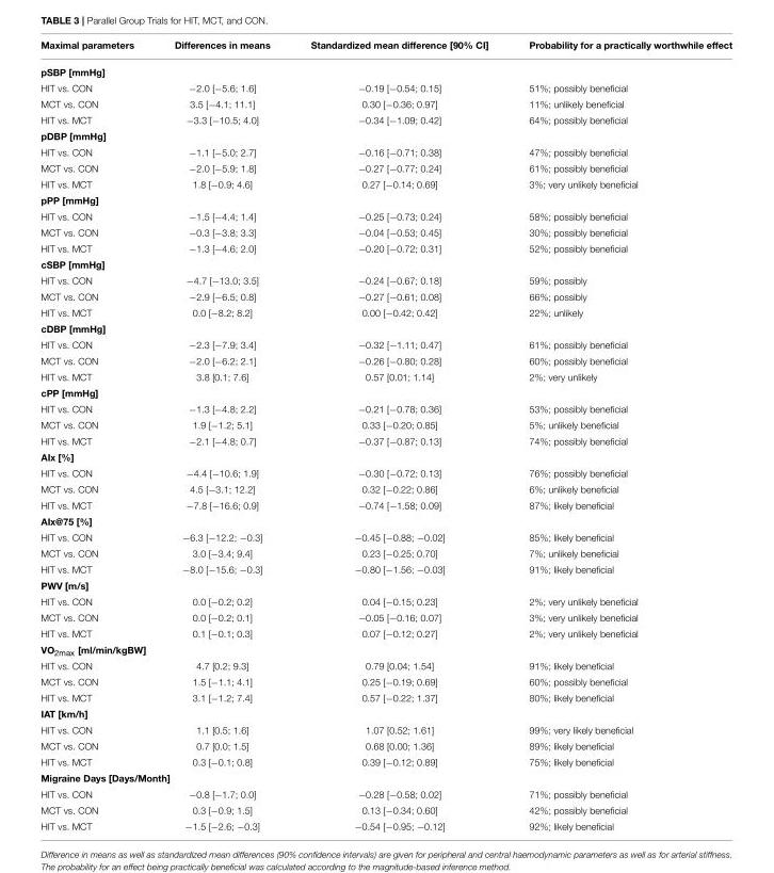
<table><thead><tr><td>Maximal parameters</td><td>Differences in means</td><td>Standardized mean difference [90% CI]</td><td>Probability for a practically worthwhile effect</td></tr></thead><tbody><tr><td colspan="4">pSBP [mmHg]</td></tr><tr><td>HIT vs. CON</td><td>−2.0 [−5.6; 1.6]</td><td>−0.19 [−0.54; 0.15]</td><td>51%; possibly beneficial</td></tr><tr><td>MCT vs. CON</td><td>3.5 [−4.1; 11.1]</td><td>0.30 [−0.36; 0.97]</td><td>11%; unlikely beneficial</td></tr><tr><td>HIT vs. MCT</td><td>−3.3 [−10.5; 4.0]</td><td>−0.34 [−1.09; 0.42]</td><td>64%; possibly beneficial</td></tr><tr><td colspan="4">pDBP [mmHg]</td></tr><tr><td>HIT vs. CON</td><td>−1.1 [−5.0; 2.7]</td><td>−0.16 [−0.71; 0.38]</td><td>47%; possibly beneficial</td></tr><tr><td>MCT vs. CON</td><td>−2.0 [−5.9; 1.8]</td><td>−0.27 [−0.77; 0.24]</td><td>61%; possibly beneficial</td></tr><tr><td>HIT vs. MCT</td><td>1.8 [−0.9; 4.6]</td><td>0.27 [−0.14; 0.69]</td><td>3%; very unlikely beneficial</td></tr><tr><td colspan="4">pPP [mmHg]</td></tr><tr><td>HIT vs. CON</td><td>−1.5 [−4.4; 1.4]</td><td>−0.25 [−0.73; 0.24]</td><td>58%; possibly beneficial</td></tr><tr><td>MCT vs. CON</td><td>−0.3 [−3.8; 3.3]</td><td>−0.04 [−0.53; 0.45]</td><td>30%; possibly beneficial</td></tr><tr><td>HIT vs. MCT</td><td>−1.3 [−4.6; 2.0]</td><td>−0.20 [−0.72; 0.31]</td><td>52%; possibly beneficial</td></tr><tr><td colspan="4">cSBP [mmHg]</td></tr><tr><td>HIT vs. CON</td><td>−4.7 [−13.0; 3.5]</td><td>−0.24 [−0.67; 0.18]</td><td>59%; possibly</td></tr><tr><td>MCT vs. CON</td><td>−2.9 [−6.5; 0.8]</td><td>−0.27 [−0.61; 0.08]</td><td>66%; possibly</td></tr><tr><td>HIT vs. MCT</td><td>0.0 [−8.2; 8.2]</td><td>0.00 [−0.42; 0.42]</td><td>22%; unlikely</td></tr><tr><td colspan="4">cDBP [mmHg]</td></tr><tr><td>HIT vs. CON</td><td>−2.3 [−7.9; 3.4]</td><td>−0.32 [−1.11; 0.47]</td><td>61%; possibly beneficial</td></tr><tr><td>MCT vs. CON</td><td>−2.0 [−6.2; 2.1]</td><td>−0.26 [−0.80; 0.28]</td><td>60%; possibly beneficial</td></tr><tr><td>HIT vs. MCT</td><td>3.8 [0.1; 7.6]</td><td>0.57 [0.01; 1.14]</td><td>2%; very unlikely</td></tr><tr><td colspan="4">cPP [mmHg]</td></tr><tr><td>HIT vs. CON</td><td>−1.3 [−4.8; 2.2]</td><td>−0.21 [−0.78; 0.36]</td><td>53%; possibly beneficial</td></tr><tr><td>MCT vs. CON</td><td>1.9 [−1.2; 5.1]</td><td>0.33 [−0.20; 0.85]</td><td>5%; unlikely beneficial</td></tr><tr><td>HIT vs. MCT</td><td>−2.1 [−4.8; 0.7]</td><td>−0.37 [−0.87; 0.13]</td><td>74%; possibly beneficial</td></tr><tr><td colspan="4">AIx [%]</td></tr><tr><td>HIT vs. CON</td><td>−4.4 [−10.6; 1.9]</td><td>−0.30 [−0.72; 0.13]</td><td>76%; possibly beneficial</td></tr><tr><td>MCT vs. CON</td><td>4.5 [−3.1; 12.2]</td><td>0.32 [−0.22; 0.86]</td><td>6%; unlikely beneficial</td></tr><tr><td>HIT vs. MCT</td><td>−7.8 [−16.6; 0.9]</td><td>−0.74 [−1.58; 0.09]</td><td>87%; likely beneficial</td></tr><tr><td colspan="4">AIx@75 [%]</td></tr><tr><td>HIT vs. CON</td><td>−6.3 [−12.2; −0.3]</td><td>−0.45 [−0.88; −0.02]</td><td>85%; likely beneficial</td></tr><tr><td>MCT vs. CON</td><td>3.0 [−3.4; 9.4]</td><td>0.23 [−0.25; 0.70]</td><td>7%; unlikely beneficial</td></tr><tr><td>HIT vs. MCT</td><td>−8.0 [−15.6; −0.3]</td><td>−0.80 [−1.56; −0.03]</td><td>91%; likely beneficial</td></tr><tr><td colspan="4">PWV [m/s]</td></tr><tr><td>HIT vs. CON</td><td>0.0 [−0.2; 0.2]</td><td>0.04 [−0.15; 0.23]</td><td>2%; very unlikely beneficial</td></tr><tr><td>MCT vs. CON</td><td>0.0 [−0.2; 0.1]</td><td>−0.05 [−0.16; 0.07]</td><td>3%; very unlikely beneficial</td></tr><tr><td>HIT vs. MCT</td><td>0.1 [−0.1; 0.3]</td><td>0.07 [−0.12; 0.27]</td><td>2%; very unlikely beneficial</td></tr><tr><td colspan="4">VO<sub>2max</sub> [ml/min/kgBW]</td></tr><tr><td>HIT vs. CON</td><td>4.7 [0.2; 9.3]</td><td>0.79 [0.04; 1.54]</td><td>91%; likely beneficial</td></tr><tr><td>MCT vs. CON</td><td>1.5 [−1.1; 4.1]</td><td>0.25 [−0.19; 0.69]</td><td>60%; possibly beneficial</td></tr><tr><td>HIT vs. MCT</td><td>3.1 [−1.2; 7.4]</td><td>0.57 [−0.22; 1.37]</td><td>80%; likely beneficial</td></tr><tr><td colspan="4">IAT [km/h]</td></tr><tr><td>HIT vs. CON</td><td>1.1 [0.5; 1.6]</td><td>1.07 [0.52; 1.61]</td><td>99%; very likely beneficial</td></tr><tr><td>MCT vs. CON</td><td>0.7 [0.0; 1.5]</td><td>0.68 [0.00; 1.36]</td><td>89%; likely beneficial</td></tr><tr><td>HIT vs. MCT</td><td>0.3 [−0.1; 0.8]</td><td>0.39 [−0.12; 0.89]</td><td>75%; likely beneficial</td></tr><tr><td colspan="4">Migraine Days [Days/Month]</td></tr><tr><td>HIT vs. CON</td><td>−0.8 [−1.7; 0.0]</td><td>−0.28 [−0.58; 0.02]</td><td>71%; possibly beneficial</td></tr><tr><td>MCT vs. CON</td><td>0.3 [−0.9; 1.5]</td><td>0.13 [−0.34; 0.60]</td><td>42%; possibly beneficial</td></tr><tr><td>HIT vs. MCT</td><td>−1.5 [−2.6; −0.3]</td><td>−0.54 [−0.95; −0.12]</td><td>92%; likely beneficial</td></tr></tbody></table>